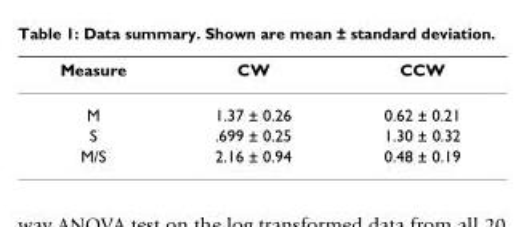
<table><thead><tr><td>Measure</td><td>CW</td><td>CCW</td></tr></thead><tbody><tr><td>M</td><td>1.37 ± 0.26</td><td>0.62 ± 0.21</td></tr><tr><td>S</td><td>.699 ± 0.25</td><td>1.30 ± 0.32</td></tr><tr><td>M/S</td><td>2.16 ± 0.94</td><td>0.48 ± 0.19</td></tr></tbody></table>